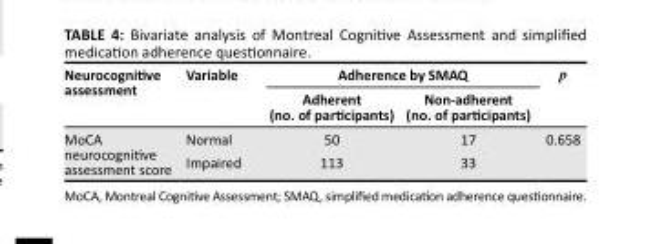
<table><thead><tr><td rowspan="2">Neurocognitive assessment</td><td rowspan="2">Variable</td><td colspan="2">Adherence by SMAQ</td><td rowspan="2">p</td></tr><tr><td>Adherent (no. of participants)</td><td>Non-adherent (no. of participants)</td></tr></thead><tbody><tr><td rowspan="2">MoCA neurocognitive assessment score</td><td>Normal</td><td>50</td><td>17</td><td rowspan="2">0.658</td></tr><tr><td>Impaired</td><td>113</td><td>33</td></tr></tbody></table>